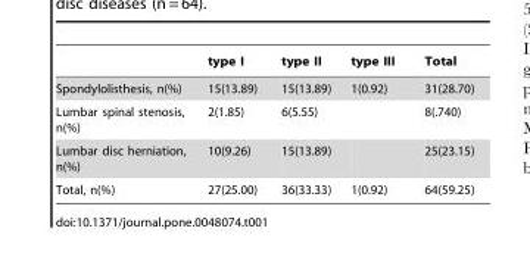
<table><thead><tr><td></td><td>type I</td><td>type II</td><td>type III</td><td>Total</td></tr></thead><tbody><tr><td>Spondylolisthesis, n(%)</td><td>15(13.89)</td><td>15(13.89)</td><td>1(0.92)</td><td>31(28.70)</td></tr><tr><td>Lumbar spinal stenosis, n(%)</td><td>2(1.85)</td><td>6(5.55)</td><td></td><td>8(.740)</td></tr><tr><td>Lumbar disc herniation, n(%)</td><td>10(9.26)</td><td>15(13.89)</td><td></td><td>25(23.15)</td></tr><tr><td>Total, n(%)</td><td>27(25.00)</td><td>36(33.33)</td><td>1(0.92)</td><td>64(59.25)</td></tr></tbody></table>